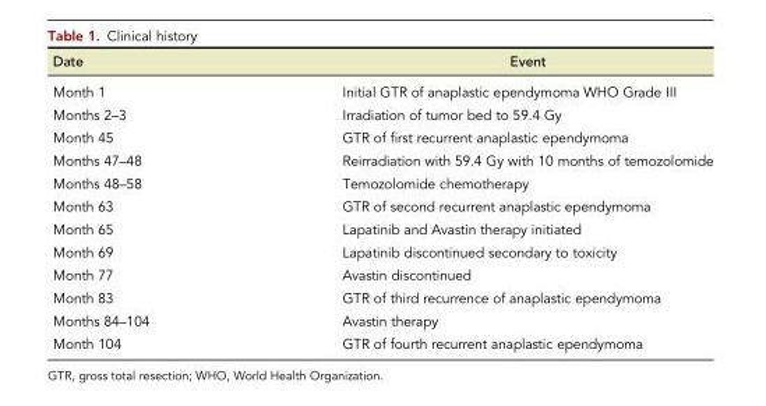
<table><thead><tr><td>Date</td><td>Event</td></tr></thead><tbody><tr><td>Month 1</td><td>Initial GTR of anaplastic ependymoma WHO Grade III</td></tr><tr><td>Months 2–3</td><td>Irradiation of tumor bed to 59.4 Gy</td></tr><tr><td>Month 45</td><td>GTR of first recurrent anaplastic ependymoma</td></tr><tr><td>Months 47–48</td><td>Reirradiation with 59.4 Gy with 10 months of temozolomide</td></tr><tr><td>Months 48–58</td><td>Temozolomide chemotherapy</td></tr><tr><td>Month 63</td><td>GTR of second recurrent anaplastic ependymoma</td></tr><tr><td>Month 65</td><td>Lapatinib and Avastin therapy initiated</td></tr><tr><td>Month 69</td><td>Lapatinib discontinued secondary to toxicity</td></tr><tr><td>Month 77</td><td>Avastin discontinued</td></tr><tr><td>Month 83</td><td>GTR of third recurrence of anaplastic ependymoma</td></tr><tr><td>Months 84–104</td><td>Avastin therapy</td></tr><tr><td>Month 104</td><td>GTR of fourth recurrent anaplastic ependymoma</td></tr></tbody></table>